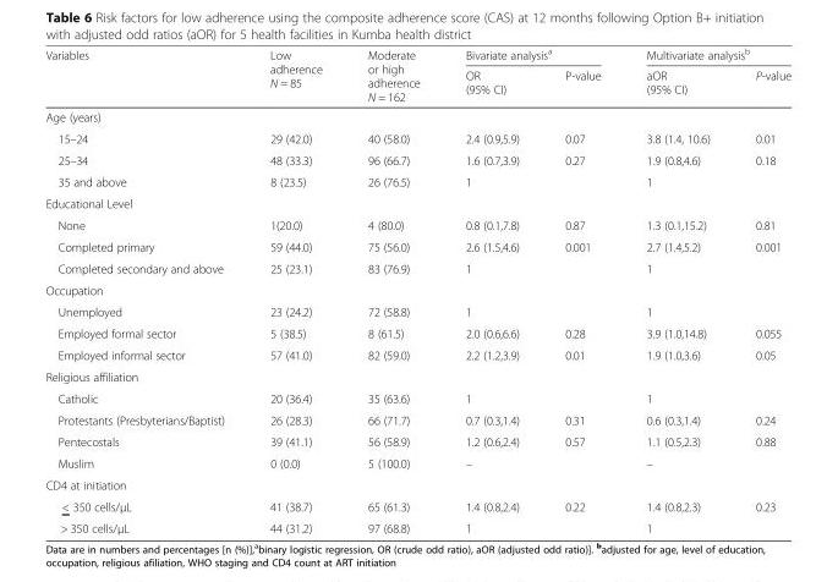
<table><thead><tr><td rowspan="2">Variables</td><td rowspan="2">Low adherence N = 85</td><td rowspan="2">Moderate or high adherence N = 162</td><td colspan="2">Bivariate analysis<sup>a</sup></td><td colspan="2">Multivariate analysis<sup>b</sup></td></tr><tr><td>OR (95% CI)</td><td>P-value</td><td>aOR (95% CI)</td><td>P-value</td></tr></thead><tbody><tr><td colspan="7">Age (years)</td></tr><tr><td>15–24</td><td>29 (42.0)</td><td>40 (58.0)</td><td>2.4 (0.9,5.9)</td><td>0.07</td><td>3.8 (1.4, 10.6)</td><td>0.01</td></tr><tr><td>25–34</td><td>48 (33.3)</td><td>96 (66.7)</td><td>1.6 (0.7,3.9)</td><td>0.27</td><td>1.9 (0.8,4.6)</td><td>0.18</td></tr><tr><td>35 and above</td><td>8 (23.5)</td><td>26 (76.5)</td><td>1</td><td></td><td>1</td><td></td></tr><tr><td colspan="7">Educational Level</td></tr><tr><td>None</td><td>1(20.0)</td><td>4 (80.0)</td><td>0.8 (0.1,7.8)</td><td>0.87</td><td>1.3 (0.1,15.2)</td><td>0.81</td></tr><tr><td>Completed primary</td><td>59 (44.0)</td><td>75 (56.0)</td><td>2.6 (1.5,4.6)</td><td>0.001</td><td>2.7 (1.4,5.2)</td><td>0.001</td></tr><tr><td>Completed secondary and above</td><td>25 (23.1)</td><td>83 (76.9)</td><td>1</td><td></td><td>1</td><td></td></tr><tr><td colspan="7">Occupation</td></tr><tr><td>Unemployed</td><td>23 (24.2)</td><td>72 (58.8)</td><td>1</td><td></td><td>1</td><td></td></tr><tr><td>Employed formal sector</td><td>5 (38.5)</td><td>8 (61.5)</td><td>2.0 (0.6,6.6)</td><td>0.28</td><td>3.9 (1.0,14.8)</td><td>0.055</td></tr><tr><td>Employed informal sector</td><td>57 (41.0)</td><td>82 (59.0)</td><td>2.2 (1.2,3.9)</td><td>0.01</td><td>1.9 (1.0,3.6)</td><td>0.05</td></tr><tr><td colspan="7">Religious affiliation</td></tr><tr><td>Catholic</td><td>20 (36.4)</td><td>35 (63.6)</td><td>1</td><td></td><td>1</td><td></td></tr><tr><td>Protestants (Presbyterians/Baptist)</td><td>26 (28.3)</td><td>66 (71.7)</td><td>0.7 (0.3,1.4)</td><td>0.31</td><td>0.6 (0.3,1.4)</td><td>0.24</td></tr><tr><td>Pentecostals</td><td>39 (41.1)</td><td>56 (58.9)</td><td>1.2 (0.6,2.4)</td><td>0.57</td><td>1.1 (0.5,2.3)</td><td>0.88</td></tr><tr><td>Muslim</td><td>0 (0.0)</td><td>5 (100.0)</td><td>–</td><td></td><td>–</td><td></td></tr><tr><td colspan="7">CD4 at initiation</td></tr><tr><td>&lt; 350 cells/μL</td><td>41 (38.7)</td><td>65 (61.3)</td><td>1.4 (0.8,2.4)</td><td>0.22</td><td>1.4 (0.8,2.3)</td><td>0.23</td></tr><tr><td>&gt; 350 cells/μL</td><td>44 (31.2)</td><td>97 (68.8)</td><td>1</td><td></td><td>1</td><td></td></tr></tbody></table>